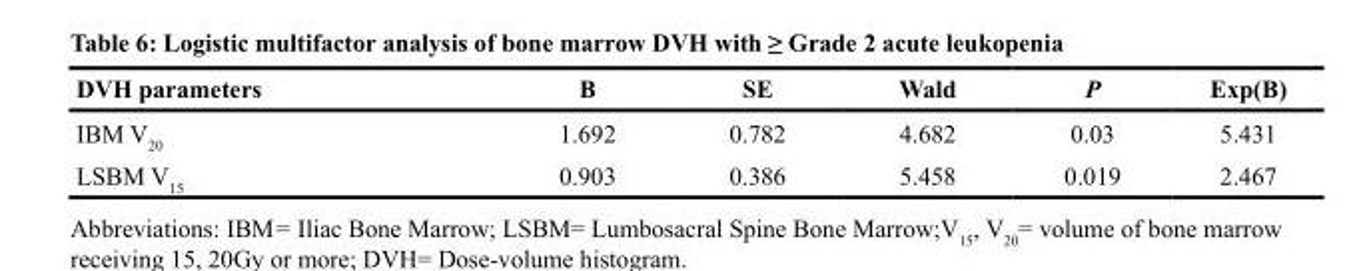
<table><thead><tr><td>DVH parameters</td><td>B</td><td>SE</td><td>Wald</td><td>P</td><td>Exp(B)</td></tr></thead><tbody><tr><td>IBM V<sub>20</sub></td><td>1.692</td><td>0.782</td><td>4.682</td><td>0.03</td><td>5.431</td></tr><tr><td>LSBM V<sub>15</sub></td><td>0.903</td><td>0.386</td><td>5.458</td><td>0.019</td><td>2.467</td></tr></tbody></table>